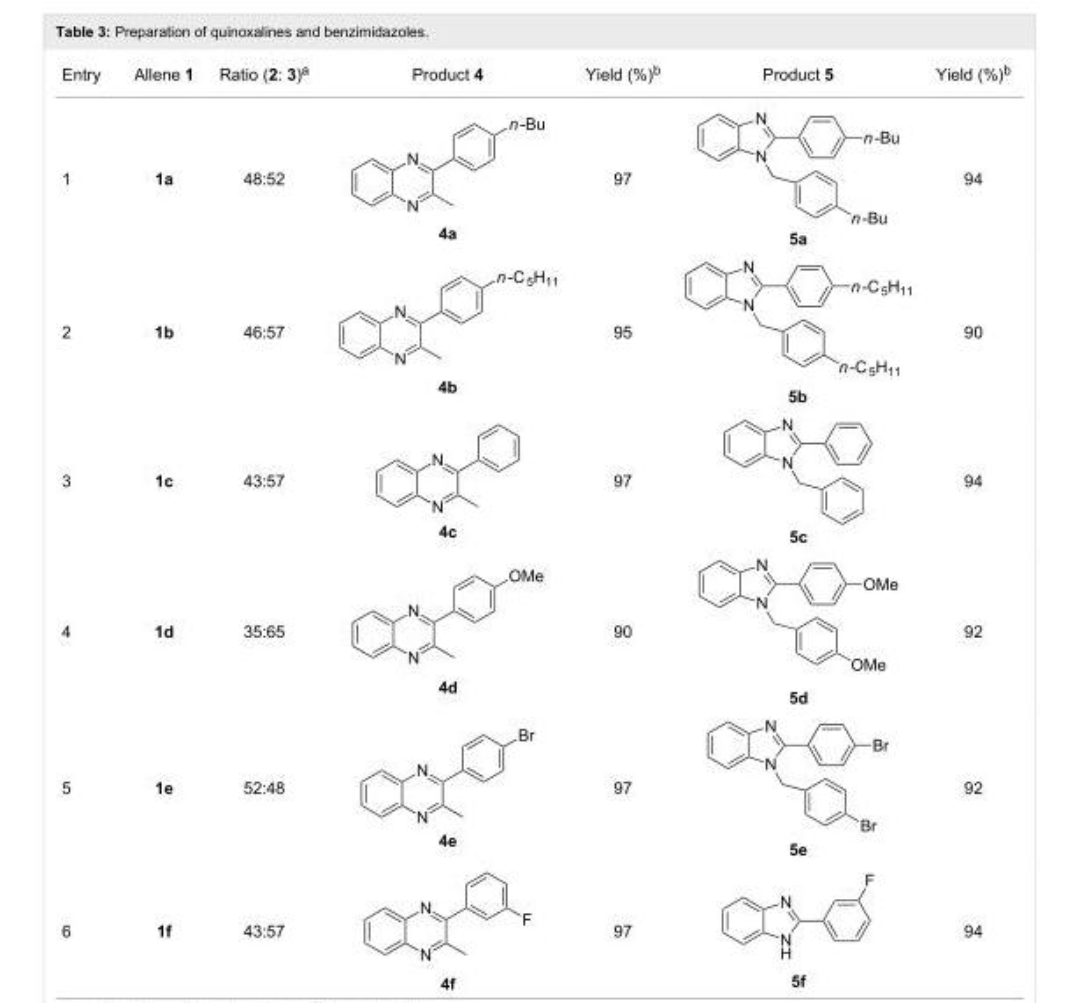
<table><tbody><tr><td>Entry</td><td>Allene 1</td><td>Ratio (2: 3)<sup>a</sup></td><td>Product 4</td><td>Yield (%)<sup>b</sup></td><td>Product 5</td><td>Yield (%)<sup>b</sup></td></tr><tr><td>1</td><td>1a</td><td>48:52</td><td></td><td>97</td><td></td><td>94</td></tr><tr><td>2</td><td>1b</td><td>46:57</td><td></td><td>95</td><td></td><td>90</td></tr><tr><td>3</td><td>1c</td><td>43:57</td><td></td><td>97</td><td></td><td>94</td></tr><tr><td>4</td><td>1d</td><td>35:65</td><td></td><td>90</td><td></td><td>92</td></tr><tr><td>5</td><td>1e</td><td>52:48</td><td></td><td>97</td><td></td><td>92</td></tr><tr><td>6</td><td>1f</td><td>43:57</td><td></td><td>97</td><td></td><td>94</td></tr></tbody></table>